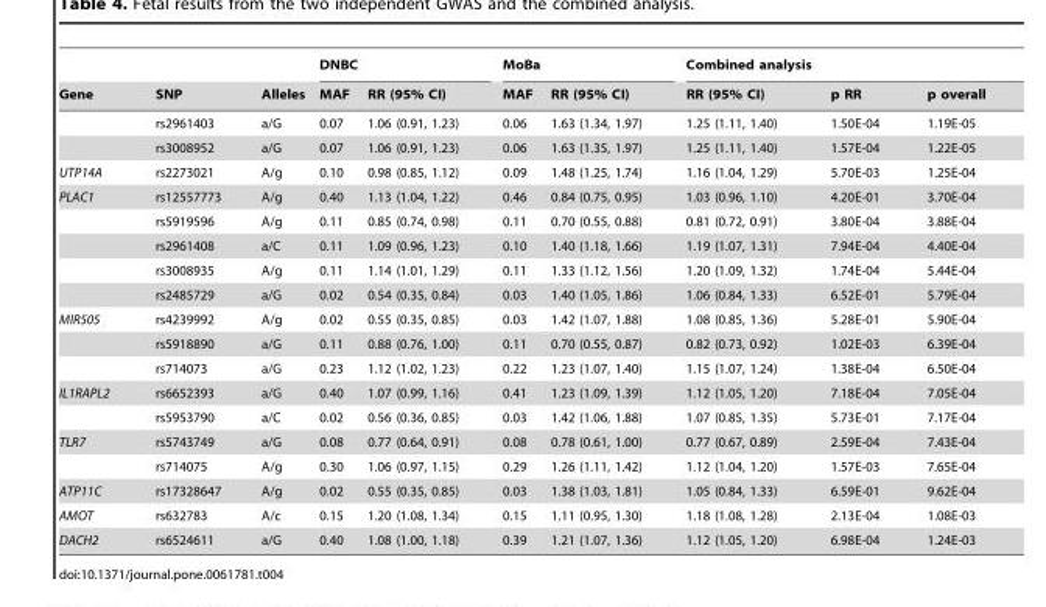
<table><thead><tr><td rowspan="2">Gene</td><td rowspan="2">SNP</td><td rowspan="2">Alleles</td><td colspan="2">DNBC</td><td colspan="2">MoBa</td><td colspan="3">Combined analysis</td></tr><tr><td>MAF</td><td>RR (95% CI)</td><td>MAF</td><td>RR (95% CI)</td><td>RR (95% CI)</td><td>p RR</td><td>p overall</td></tr></thead><tbody><tr><td></td><td>rs2961403</td><td>a/G</td><td>0.07</td><td>1.06 (0.91, 1.23)</td><td>0.06</td><td>1.63 (1.34, 1.97)</td><td>1.25 (1.11, 1.40)</td><td>1.50E-04</td><td>1.19E-05</td></tr><tr><td></td><td>rs3008952</td><td>a/G</td><td>0.07</td><td>1.06 (0.91, 1.23)</td><td>0.06</td><td>1.63 (1.35, 1.97)</td><td>1.25 (1.11, 1.40)</td><td>1.57E-04</td><td>1.22E-05</td></tr><tr><td>UTP14A</td><td>rs2273021</td><td>A/g</td><td>0.10</td><td>0.98 (0.85, 1.12)</td><td>0.09</td><td>1.48 (1.25, 1.74)</td><td>1.16 (1.04, 1.29)</td><td>5.70E-03</td><td>1.25E-04</td></tr><tr><td rowspan="5">PLAC1</td><td>rs12557773</td><td>A/g</td><td>0.40</td><td>1.13 (1.04, 1.22)</td><td>0.46</td><td>0.84 (0.75, 0.95)</td><td>1.03 (0.96, 1.10)</td><td>4.20E-01</td><td>3.70E-04</td></tr><tr><td>rs5919596</td><td>A/g</td><td>0.11</td><td>0.85 (0.74, 0.98)</td><td>0.11</td><td>0.70 (0.55, 0.88)</td><td>0.81 (0.72, 0.91)</td><td>3.80E-04</td><td>3.88E-04</td></tr><tr><td>rs2961408</td><td>a/C</td><td>0.11</td><td>1.09 (0.96, 1.23)</td><td>0.10</td><td>1.40 (1.18, 1.66)</td><td>1.19 (1.07, 1.31)</td><td>7.94E-04</td><td>4.40E-04</td></tr><tr><td>rs3008935</td><td>A/g</td><td>0.11</td><td>1.14 (1.01, 1.29)</td><td>0.11</td><td>1.33 (1.12, 1.56)</td><td>1.20 (1.09, 1.32)</td><td>1.74E-04</td><td>5.44E-04</td></tr><tr><td>rs2485729</td><td>a/G</td><td>0.02</td><td>0.54 (0.35, 0.84)</td><td>0.03</td><td>1.40 (1.05, 1.86)</td><td>1.06 (0.84, 1.33)</td><td>6.52E-01</td><td>5.79E-04</td></tr><tr><td rowspan="3">MIR505</td><td>rs4239992</td><td>A/g</td><td>0.02</td><td>0.55 (0.35, 0.85)</td><td>0.03</td><td>1.42 (1.07, 1.88)</td><td>1.08 (0.85, 1.36)</td><td>5.28E-01</td><td>5.90E-04</td></tr><tr><td>rs5918890</td><td>a/G</td><td>0.11</td><td>0.88 (0.76, 1.00)</td><td>0.11</td><td>0.70 (0.55, 0.87)</td><td>0.82 (0.73, 0.92)</td><td>1.02E-03</td><td>6.39E-04</td></tr><tr><td>rs714073</td><td>a/G</td><td>0.23</td><td>1.12 (1.02, 1.23)</td><td>0.22</td><td>1.23 (1.07, 1.40)</td><td>1.15 (1.07, 1.24)</td><td>1.38E-04</td><td>6.50E-04</td></tr><tr><td rowspan="2">IL1RAPL2</td><td>rs6652393</td><td>a/G</td><td>0.40</td><td>1.07 (0.99, 1.16)</td><td>0.41</td><td>1.23 (1.09, 1.39)</td><td>1.12 (1.05, 1.20)</td><td>7.18E-04</td><td>7.05E-04</td></tr><tr><td>rs5953790</td><td>a/C</td><td>0.02</td><td>0.56 (0.36, 0.85)</td><td>0.03</td><td>1.42 (1.06, 1.88)</td><td>1.07 (0.85, 1.35)</td><td>5.73E-01</td><td>7.17E-04</td></tr><tr><td rowspan="2">TLR7</td><td>rs5743749</td><td>a/G</td><td>0.08</td><td>0.77 (0.64, 0.91)</td><td>0.08</td><td>0.78 (0.61, 1.00)</td><td>0.77 (0.67, 0.89)</td><td>2.59E-04</td><td>7.43E-04</td></tr><tr><td>rs714075</td><td>A/g</td><td>0.30</td><td>1.06 (0.97, 1.15)</td><td>0.29</td><td>1.26 (1.11, 1.42)</td><td>1.12 (1.04, 1.20)</td><td>1.57E-03</td><td>7.65E-04</td></tr><tr><td>ATP11C</td><td>rs17328647</td><td>A/g</td><td>0.02</td><td>0.55 (0.35, 0.85)</td><td>0.03</td><td>1.38 (1.03, 1.81)</td><td>1.05 (0.84, 1.33)</td><td>6.59E-01</td><td>9.62E-04</td></tr><tr><td>AMOT</td><td>rs632783</td><td>A/c</td><td>0.15</td><td>1.20 (1.08, 1.34)</td><td>0.15</td><td>1.11 (0.95, 1.30)</td><td>1.18 (1.08, 1.28)</td><td>2.13E-04</td><td>1.08E-03</td></tr><tr><td>DACH2</td><td>rs6524611</td><td>a/G</td><td>0.40</td><td>1.08 (1.00, 1.18)</td><td>0.39</td><td>1.21 (1.07, 1.36)</td><td>1.12 (1.05, 1.20)</td><td>6.98E-04</td><td>1.24E-03</td></tr></tbody></table>